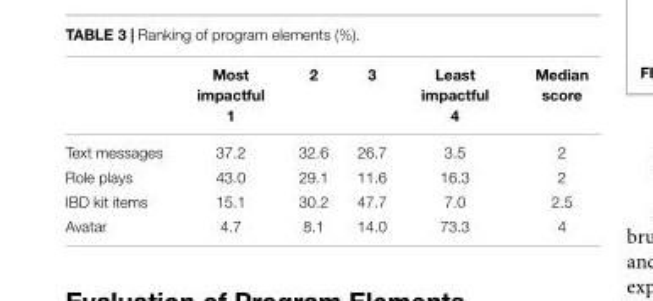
<table><thead><tr><td></td><td>Most impactful 1</td><td>2</td><td>3</td><td>Least impactful 4</td><td>Median score</td></tr></thead><tbody><tr><td>Text messages</td><td>37.2</td><td>32.6</td><td>26.7</td><td>3.5</td><td>2</td></tr><tr><td>Role plays</td><td>43.0</td><td>29.1</td><td>11.6</td><td>16.3</td><td>2</td></tr><tr><td>IBD kit items</td><td>15.1</td><td>30.2</td><td>47.7</td><td>7.0</td><td>2.5</td></tr><tr><td>Avatar</td><td>4.7</td><td>8.1</td><td>14.0</td><td>73.3</td><td>4</td></tr></tbody></table>